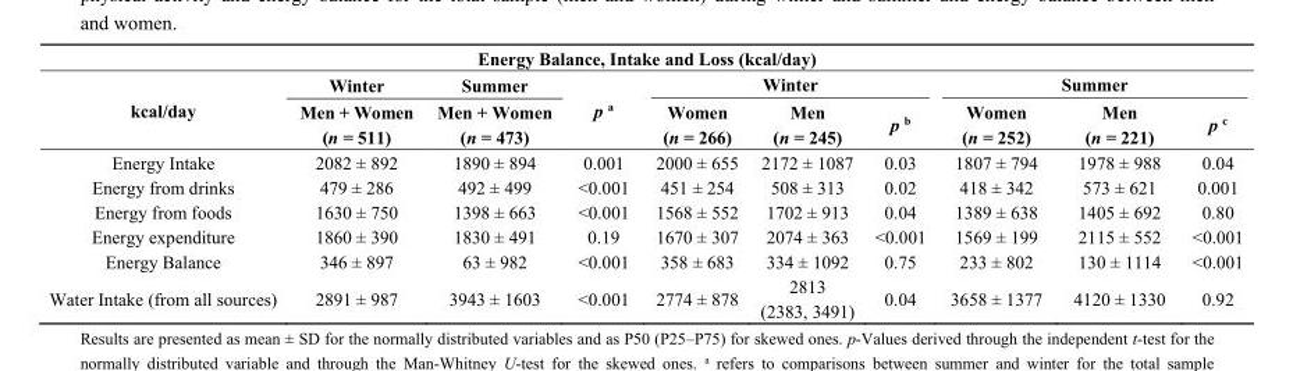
<table><thead><tr><td colspan="10">Energy Balance, Intake and Loss (kcal/day)</td></tr><tr><td rowspan="2">kcal/day</td><td rowspan="2">Winter Men + Women (n = 511)</td><td rowspan="2">Summer Men + Women (n = 473)</td><td rowspan="2">p <sup>a</sup></td><td colspan="3">Winter</td><td colspan="3">Summer</td></tr><tr><td>Women (n = 266)</td><td>Men (n = 245)</td><td>p <sup>b</sup></td><td>Women (n = 252)</td><td>Men (n = 221)</td><td>p <sup>c</sup></td></tr></thead><tbody><tr><td>Energy Intake</td><td>2082 ± 892</td><td>1890 ± 894</td><td>0.001</td><td>2000 ± 655</td><td>2172 ± 1087</td><td>0.03</td><td>1807 ± 794</td><td>1978 ± 988</td><td>0.04</td></tr><tr><td>Energy from drinks</td><td>479 ± 286</td><td>492 ± 499</td><td>&lt;0.001</td><td>451 ± 254</td><td>508 ± 313</td><td>0.02</td><td>418 ± 342</td><td>573 ± 621</td><td>0.001</td></tr><tr><td>Energy from foods</td><td>1630 ± 750</td><td>1398 ± 663</td><td>&lt;0.001</td><td>1568 ± 552</td><td>1702 ± 913</td><td>0.04</td><td>1389 ± 638</td><td>1405 ± 692</td><td>0.80</td></tr><tr><td>Energy expenditure</td><td>1860 ± 390</td><td>1830 ± 491</td><td>0.19</td><td>1670 ± 307</td><td>2074 ± 363</td><td>&lt;0.001</td><td>1569 ± 199</td><td>2115 ± 552</td><td>&lt;0.001</td></tr><tr><td>Energy Balance</td><td>346 ± 897</td><td>63 ± 982</td><td>&lt;0.001</td><td>358 ± 683</td><td>334 ± 1092</td><td>0.75</td><td>233 ± 802</td><td>130 ± 1114</td><td>&lt;0.001</td></tr><tr><td>Water Intake (from all sources)</td><td>2891 ± 987</td><td>3943 ± 1603</td><td>&lt;0.001</td><td>2774 ± 878</td><td>2813 (2383, 3491)</td><td>0.04</td><td>3658 ± 1377</td><td>4120 ± 1330</td><td>0.92</td></tr></tbody></table>